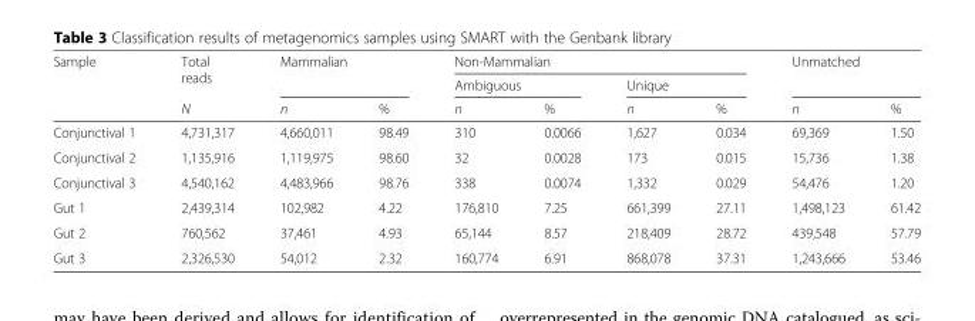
<table><thead><tr><td rowspan="3">Sample</td><td rowspan="3">Total reads N</td><td rowspan="2" colspan="2">Mammalian</td><td colspan="4">Non-Mammalian</td><td rowspan="2" colspan="2">Unmatched</td></tr><tr><td colspan="2">Ambiguous</td><td colspan="2">Unique</td></tr><tr><td>n</td><td>%</td><td>n</td><td>%</td><td>n</td><td>%</td><td>n</td><td>%</td></tr></thead><tbody><tr><td>Conjunctival 1</td><td>4,731,317</td><td>4,660,011</td><td>98.49</td><td>310</td><td>0.0066</td><td>1,627</td><td>0.034</td><td>69,369</td><td>1.50</td></tr><tr><td>Conjunctival 2</td><td>1,135,916</td><td>1,119,975</td><td>98.60</td><td>32</td><td>0.0028</td><td>173</td><td>0.015</td><td>15,736</td><td>1.38</td></tr><tr><td>Conjunctival 3</td><td>4,540,162</td><td>4,483,966</td><td>98.76</td><td>338</td><td>0.0074</td><td>1,332</td><td>0.029</td><td>54,476</td><td>1.20</td></tr><tr><td>Gut 1</td><td>2,439,314</td><td>102,982</td><td>4.22</td><td>176,810</td><td>7.25</td><td>661,399</td><td>27.11</td><td>1,498,123</td><td>61.42</td></tr><tr><td>Gut 2</td><td>760,562</td><td>37,461</td><td>4.93</td><td>65,144</td><td>8.57</td><td>218,409</td><td>28.72</td><td>439,548</td><td>57.79</td></tr><tr><td>Gut 3</td><td>2,326,530</td><td>54,012</td><td>2.32</td><td>160,774</td><td>6.91</td><td>868,078</td><td>37.31</td><td>1,243,666</td><td>53.46</td></tr></tbody></table>